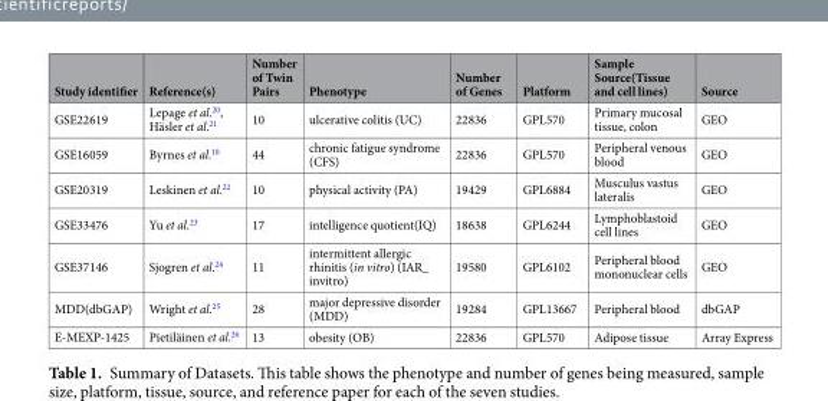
<table><thead><tr><td>Study identifier</td><td>Reference(s)</td><td>Number of Twin Pairs</td><td>Phenotype</td><td>Number of Genes</td><td>Platform</td><td>Sample Source(Tissue and cell lines)</td><td>Source</td></tr></thead><tbody><tr><td>GSE22619</td><td>Lepage et al.<sup>20</sup>, Häsler et al.<sup>21</sup></td><td>10</td><td>ulcerative colitis (UC)</td><td>22836</td><td>GPL570</td><td>Primary mucosal tissue, colon</td><td>GEO</td></tr><tr><td>GSE16059</td><td>Byrnes et al.<sup>10</sup></td><td>44</td><td>chronic fatigue syndrome (CFS)</td><td>22836</td><td>GPL570</td><td>Peripheral venous blood</td><td>GEO</td></tr><tr><td>GSE20319</td><td>Leskinen et al.<sup>22</sup></td><td>10</td><td>physical activity (PA)</td><td>19429</td><td>GPL6884</td><td>Musculus vastus lateralis</td><td>GEO</td></tr><tr><td>GSE33476</td><td>Yu et al.<sup>23</sup></td><td>17</td><td>intelligence quotient(IQ)</td><td>18638</td><td>GPL6244</td><td>Lymphoblastoid cell lines</td><td>GEO</td></tr><tr><td>GSE37146</td><td>Sjogren et al.<sup>24</sup></td><td>11</td><td>intermittent allergic rhinitis (in vitro) (IAR_ invitro)</td><td>19580</td><td>GPL6102</td><td>Peripheral blood mononuclear cells</td><td>GEO</td></tr><tr><td>MDD(dbGAP)</td><td>Wright et al.<sup>25</sup></td><td>28</td><td>major depressive disorder (MDD)</td><td>19284</td><td>GPL13667</td><td>Peripheral blood</td><td>dbGAP</td></tr><tr><td>E-MEXP-1425</td><td>Pietiläinen et al.<sup>26</sup></td><td>13</td><td>obesity (OB)</td><td>22836</td><td>GPL570</td><td>Adipose tissue</td><td>Array Express</td></tr></tbody></table>